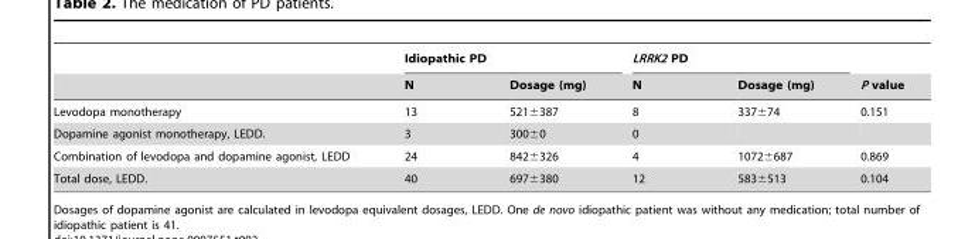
<table><thead><tr><td rowspan="2"></td><td colspan="2">Idiopathic PD</td><td colspan="2">LRRK2 PD</td><td rowspan="2">P value</td></tr><tr><td>N</td><td>Dosage (mg)</td><td>N</td><td>Dosage (mg)</td></tr></thead><tbody><tr><td>Levodopa monotherapy</td><td>13</td><td>521±387</td><td>8</td><td>337±74</td><td>0.151</td></tr><tr><td>Dopamine agonist monotherapy, LEDD.</td><td>3</td><td>300±0</td><td>0</td><td></td><td></td></tr><tr><td>Combination of levodopa and dopamine agonist, LEDD</td><td>24</td><td>842±326</td><td>4</td><td>1072±687</td><td>0.869</td></tr><tr><td>Total dose, LEDD.</td><td>40</td><td>697±380</td><td>12</td><td>583±513</td><td>0.104</td></tr></tbody></table>